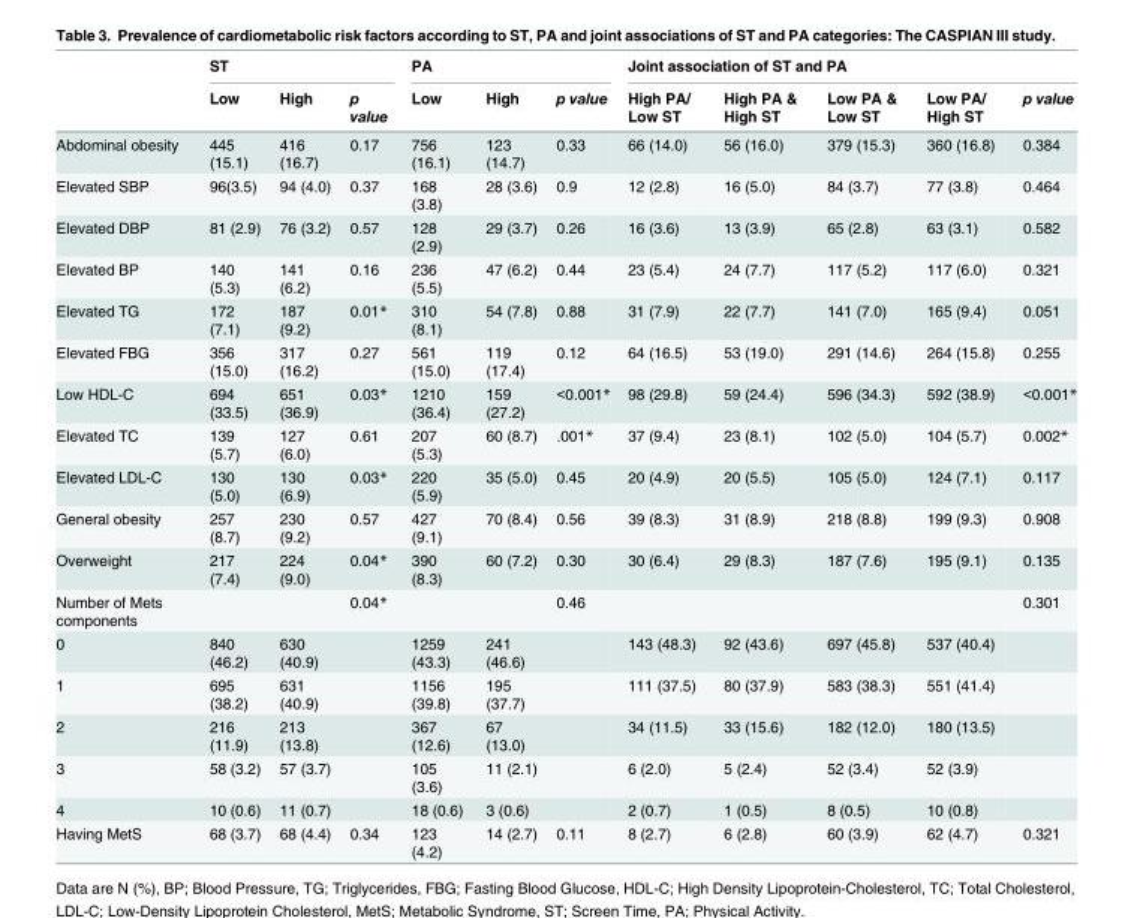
<table><thead><tr><td rowspan="2"></td><td colspan="3">ST</td><td colspan="3">PA</td><td colspan="5">Joint association of ST and PA</td></tr><tr><td>Low</td><td>High</td><td>p value</td><td>Low</td><td>High</td><td>p value</td><td>High PA/ Low ST</td><td>High PA &amp; High ST</td><td>Low PA &amp; Low ST</td><td>Low PA/ High ST</td><td>p value</td></tr></thead><tbody><tr><td>Abdominal obesity</td><td>445 (15.1)</td><td>416 (16.7)</td><td>0.17</td><td>756 (16.1)</td><td>123 (14.7)</td><td>0.33</td><td>66 (14.0)</td><td>56 (16.0)</td><td>379 (15.3)</td><td>360 (16.8)</td><td>0.384</td></tr><tr><td>Elevated SBP</td><td>96(3.5)</td><td>94 (4.0)</td><td>0.37</td><td>168 (3.8)</td><td>28 (3.6)</td><td>0.9</td><td>12 (2.8)</td><td>16 (5.0)</td><td>84 (3.7)</td><td>77 (3.8)</td><td>0.464</td></tr><tr><td>Elevated DBP</td><td>81 (2.9)</td><td>76 (3.2)</td><td>0.57</td><td>128 (2.9)</td><td>29 (3.7)</td><td>0.26</td><td>16 (3.6)</td><td>13 (3.9)</td><td>65 (2.8)</td><td>63 (3.1)</td><td>0.582</td></tr><tr><td>Elevated BP</td><td>140 (5.3)</td><td>141 (6.2)</td><td>0.16</td><td>236 (5.5)</td><td>47 (6.2)</td><td>0.44</td><td>23 (5.4)</td><td>24 (7.7)</td><td>117 (5.2)</td><td>117 (6.0)</td><td>0.321</td></tr><tr><td>Elevated TG</td><td>172 (7.1)</td><td>187 (9.2)</td><td>0.01*</td><td>310 (8.1)</td><td>54 (7.8)</td><td>0.88</td><td>31 (7.9)</td><td>22 (7.7)</td><td>141 (7.0)</td><td>165 (9.4)</td><td>0.051</td></tr><tr><td>Elevated FBG</td><td>356 (15.0)</td><td>317 (16.2)</td><td>0.27</td><td>561 (15.0)</td><td>119 (17.4)</td><td>0.12</td><td>64 (16.5)</td><td>53 (19.0)</td><td>291 (14.6)</td><td>264 (15.8)</td><td>0.255</td></tr><tr><td>Low HDL-C</td><td>694 (33.5)</td><td>651 (36.9)</td><td>0.03*</td><td>1210 (36.4)</td><td>159 (27.2)</td><td>&lt;0.001*</td><td>98 (29.8)</td><td>59 (24.4)</td><td>596 (34.3)</td><td>592 (38.9)</td><td>&lt;0.001*</td></tr><tr><td>Elevated TC</td><td>139 (5.7)</td><td>127 (6.0)</td><td>0.61</td><td>207 (5.3)</td><td>60 (8.7)</td><td>.001*</td><td>37 (9.4)</td><td>23 (8.1)</td><td>102 (5.0)</td><td>104 (5.7)</td><td>0.002*</td></tr><tr><td>Elevated LDL-C</td><td>130 (5.0)</td><td>130 (6.9)</td><td>0.03*</td><td>220 (5.9)</td><td>35 (5.0)</td><td>0.45</td><td>20 (4.9)</td><td>20 (5.5)</td><td>105 (5.0)</td><td>124 (7.1)</td><td>0.117</td></tr><tr><td>General obesity</td><td>257 (8.7)</td><td>230 (9.2)</td><td>0.57</td><td>427 (9.1)</td><td>70 (8.4)</td><td>0.56</td><td>39 (8.3)</td><td>31 (8.9)</td><td>218 (8.8)</td><td>199 (9.3)</td><td>0.908</td></tr><tr><td>Overweight</td><td>217 (7.4)</td><td>224 (9.0)</td><td>0.04*</td><td>390 (8.3)</td><td>60 (7.2)</td><td>0.30</td><td>30 (6.4)</td><td>29 (8.3)</td><td>187 (7.6)</td><td>195 (9.1)</td><td>0.135</td></tr><tr><td>Number of Mets components</td><td></td><td></td><td>0.04*</td><td></td><td></td><td>0.46</td><td></td><td></td><td></td><td></td><td>0.301</td></tr><tr><td>0</td><td>840 (46.2)</td><td>630 (40.9)</td><td></td><td>1259 (43.3)</td><td>241 (46.6)</td><td></td><td>143 (48.3)</td><td>92 (43.6)</td><td>697 (45.8)</td><td>537 (40.4)</td><td></td></tr><tr><td>1</td><td>695 (38.2)</td><td>631 (40.9)</td><td></td><td>1156 (39.8)</td><td>195 (37.7)</td><td></td><td>111 (37.5)</td><td>80 (37.9)</td><td>583 (38.3)</td><td>551 (41.4)</td><td></td></tr><tr><td>2</td><td>216 (11.9)</td><td>213 (13.8)</td><td></td><td>367 (12.6)</td><td>67 (13.0)</td><td></td><td>34 (11.5)</td><td>33 (15.6)</td><td>182 (12.0)</td><td>180 (13.5)</td><td></td></tr><tr><td>3</td><td>58 (3.2)</td><td>57 (3.7)</td><td></td><td>105 (3.6)</td><td>11 (2.1)</td><td></td><td>6 (2.0)</td><td>5 (2.4)</td><td>52 (3.4)</td><td>52 (3.9)</td><td></td></tr><tr><td>4</td><td>10 (0.6)</td><td>11 (0.7)</td><td></td><td>18 (0.6)</td><td>3 (0.6)</td><td></td><td>2 (0.7)</td><td>1 (0.5)</td><td>8 (0.5)</td><td>10 (0.8)</td><td></td></tr><tr><td>Having MetS</td><td>68 (3.7)</td><td>68 (4.4)</td><td>0.34</td><td>123 (4.2)</td><td>14 (2.7)</td><td>0.11</td><td>8 (2.7)</td><td>6 (2.8)</td><td>60 (3.9)</td><td>62 (4.7)</td><td>0.321</td></tr></tbody></table>